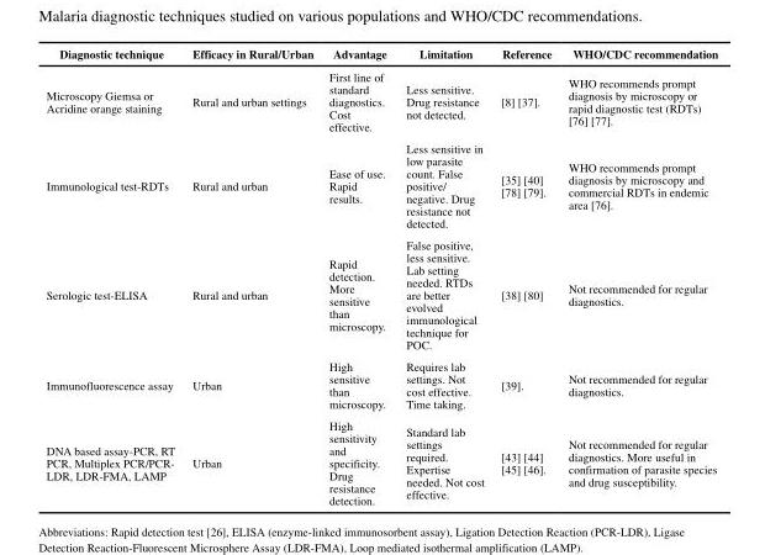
<table><thead><tr><td>Diagnostic technique</td><td>Efficacy in Rural/Urban</td><td>Advantage</td><td>Limitation</td><td>Reference</td><td>WHO/CDC recommendation</td></tr></thead><tbody><tr><td>Microscopy Giemsa or Acridine orange staining</td><td>Rural and urban settings</td><td>First line of standard diagnostics. Cost effective.</td><td>Less sensitive. Drug resistance not detected.</td><td>[8] [37].</td><td>WHO recommends prompt diagnosis by microscopy or rapid diagnostic test (RDTs) [76] [77].</td></tr><tr><td>Immunological test-RDTs</td><td>Rural and urban</td><td>Ease of use. Rapid results.</td><td>Less sensitive in low parasite count. False positive/ negative. Drug resistance not detected.</td><td>[35] [40] [78] [79].</td><td>WHO recommends prompt diagnosis by microscopy and commercial RDTs in endemic area [76].</td></tr><tr><td>Serologic test-ELISA</td><td>Rural and urban</td><td>Rapid detection. More sensitive than microscopy.</td><td>False positive, less sensitive. Lab setting needed. RTDs are better evolved immunological technique for POC.</td><td>[38] [80]</td><td>Not recommended for regular diagnostics.</td></tr><tr><td>Immunofluorescence assay</td><td>Urban</td><td>High sensitive than microscopy.</td><td>Requires lab settings. Not cost effective. Time taking.</td><td>[39].</td><td>Not recommended for regular diagnostics.</td></tr><tr><td>DNA based assay-PCR, RT PCR, Multiplex PCR/PCR- LDR, LDR-FMA, LAMP</td><td>Urban</td><td>High sensitivity and specificity. Drug resistance detection.</td><td>Standard lab settings required. Expertise needed. Not cost effective.</td><td>[43] [44] [45] [46].</td><td>Not recommended for regular diagnostics. More useful in confirmation of parasite species and drug susceptibility.</td></tr></tbody></table>